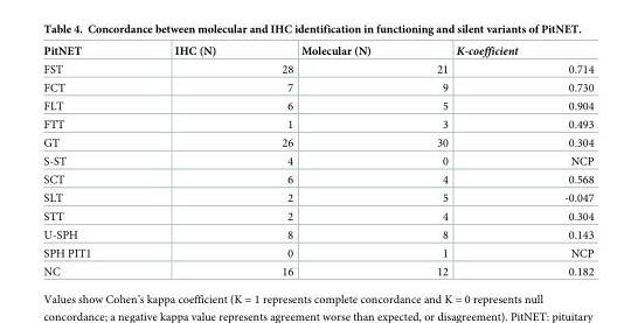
<table><thead><tr><td>PitNET</td><td>IHC (N)</td><td>Molecular (N)</td><td>K-coefficient</td></tr></thead><tbody><tr><td>FST</td><td>28</td><td>21</td><td>0.714</td></tr><tr><td>FCT</td><td>7</td><td>9</td><td>0.730</td></tr><tr><td>FLT</td><td>6</td><td>5</td><td>0.904</td></tr><tr><td>FTT</td><td>1</td><td>3</td><td>0.493</td></tr><tr><td>GT</td><td>26</td><td>30</td><td>0.304</td></tr><tr><td>S-ST</td><td>4</td><td>0</td><td>NCP</td></tr><tr><td>SCT</td><td>6</td><td>4</td><td>0.568</td></tr><tr><td>SLT</td><td>2</td><td>5</td><td>-0.047</td></tr><tr><td>STT</td><td>2</td><td>4</td><td>0.304</td></tr><tr><td>U-SPH</td><td>8</td><td>8</td><td>0.143</td></tr><tr><td>SPH PIT1</td><td>0</td><td>1</td><td>NCP</td></tr><tr><td>NC</td><td>16</td><td>12</td><td>0.182</td></tr></tbody></table>